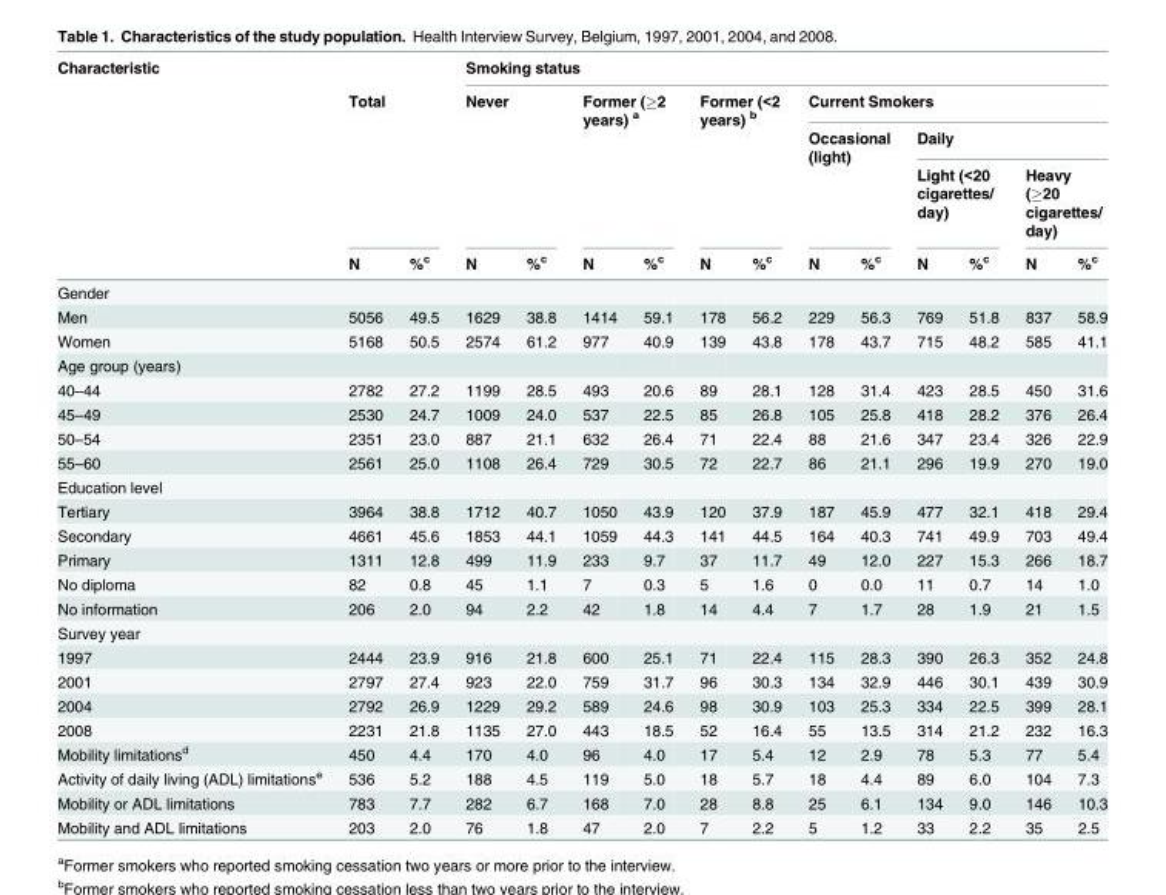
<table><thead><tr><td rowspan="5">Characteristic</td><td></td><td></td><td colspan="12">Smoking status</td></tr><tr><td colspan="2">Total</td><td colspan="2">Never</td><td colspan="2">Former (≥2 years) <sup>a</sup></td><td colspan="2">Former (&lt;2 years) <sup>b</sup></td><td colspan="6">Current Smokers</td></tr><tr><td rowspan="3">N</td><td rowspan="3">%<sup>c</sup></td><td rowspan="3">N</td><td rowspan="3">%<sup>c</sup></td><td rowspan="3">N</td><td rowspan="3">%<sup>c</sup></td><td rowspan="3">N</td><td rowspan="3">%<sup>c</sup></td><td colspan="2">Occasional (light)</td><td colspan="4">Daily</td></tr><tr><td rowspan="2">N</td><td rowspan="2">%<sup>c</sup></td><td colspan="2">Light (&lt;20 cigarettes/ day)</td><td colspan="2">Heavy (≥20 cigarettes/ day)</td></tr><tr><td>N</td><td>%<sup>c</sup></td><td>N</td><td>%<sup>c</sup></td></tr></thead><tbody><tr><td colspan="15">Gender</td></tr><tr><td>Men</td><td>5056</td><td>49.5</td><td>1629</td><td>38.8</td><td>1414</td><td>59.1</td><td>178</td><td>56.2</td><td>229</td><td>56.3</td><td>769</td><td>51.8</td><td>837</td><td>58.9</td></tr><tr><td>Women</td><td>5168</td><td>50.5</td><td>2574</td><td>61.2</td><td>977</td><td>40.9</td><td>139</td><td>43.8</td><td>178</td><td>43.7</td><td>715</td><td>48.2</td><td>585</td><td>41.1</td></tr><tr><td colspan="15">Age group (years)</td></tr><tr><td>40–44</td><td>2782</td><td>27.2</td><td>1199</td><td>28.5</td><td>493</td><td>20.6</td><td>89</td><td>28.1</td><td>128</td><td>31.4</td><td>423</td><td>28.5</td><td>450</td><td>31.6</td></tr><tr><td>45–49</td><td>2530</td><td>24.7</td><td>1009</td><td>24.0</td><td>537</td><td>22.5</td><td>85</td><td>26.8</td><td>105</td><td>25.8</td><td>418</td><td>28.2</td><td>376</td><td>26.4</td></tr><tr><td>50–54</td><td>2351</td><td>23.0</td><td>887</td><td>21.1</td><td>632</td><td>26.4</td><td>71</td><td>22.4</td><td>88</td><td>21.6</td><td>347</td><td>23.4</td><td>326</td><td>22.9</td></tr><tr><td>55–60</td><td>2561</td><td>25.0</td><td>1108</td><td>26.4</td><td>729</td><td>30.5</td><td>72</td><td>22.7</td><td>86</td><td>21.1</td><td>296</td><td>19.9</td><td>270</td><td>19.0</td></tr><tr><td colspan="15">Education level</td></tr><tr><td>Tertiary</td><td>3964</td><td>38.8</td><td>1712</td><td>40.7</td><td>1050</td><td>43.9</td><td>120</td><td>37.9</td><td>187</td><td>45.9</td><td>477</td><td>32.1</td><td>418</td><td>29.4</td></tr><tr><td>Secondary</td><td>4661</td><td>45.6</td><td>1853</td><td>44.1</td><td>1059</td><td>44.3</td><td>141</td><td>44.5</td><td>164</td><td>40.3</td><td>741</td><td>49.9</td><td>703</td><td>49.4</td></tr><tr><td>Primary</td><td>1311</td><td>12.8</td><td>499</td><td>11.9</td><td>233</td><td>9.7</td><td>37</td><td>11.7</td><td>49</td><td>12.0</td><td>227</td><td>15.3</td><td>266</td><td>18.7</td></tr><tr><td>No diploma</td><td>82</td><td>0.8</td><td>45</td><td>1.1</td><td>7</td><td>0.3</td><td>5</td><td>1.6</td><td>0</td><td>0.0</td><td>11</td><td>0.7</td><td>14</td><td>1.0</td></tr><tr><td>No information</td><td>206</td><td>2.0</td><td>94</td><td>2.2</td><td>42</td><td>1.8</td><td>14</td><td>4.4</td><td>7</td><td>1.7</td><td>28</td><td>1.9</td><td>21</td><td>1.5</td></tr><tr><td colspan="15">Survey year</td></tr><tr><td>1997</td><td>2444</td><td>23.9</td><td>916</td><td>21.8</td><td>600</td><td>25.1</td><td>71</td><td>22.4</td><td>115</td><td>28.3</td><td>390</td><td>26.3</td><td>352</td><td>24.8</td></tr><tr><td>2001</td><td>2797</td><td>27.4</td><td>923</td><td>22.0</td><td>759</td><td>31.7</td><td>96</td><td>30.3</td><td>134</td><td>32.9</td><td>446</td><td>30.1</td><td>439</td><td>30.9</td></tr><tr><td>2004</td><td>2792</td><td>26.9</td><td>1229</td><td>29.2</td><td>589</td><td>24.6</td><td>98</td><td>30.9</td><td>103</td><td>25.3</td><td>334</td><td>22.5</td><td>399</td><td>28.1</td></tr><tr><td>2008</td><td>2231</td><td>21.8</td><td>1135</td><td>27.0</td><td>443</td><td>18.5</td><td>52</td><td>16.4</td><td>55</td><td>13.5</td><td>314</td><td>21.2</td><td>232</td><td>16.3</td></tr><tr><td>Mobility limitations<sup>d</sup></td><td>450</td><td>4.4</td><td>170</td><td>4.0</td><td>96</td><td>4.0</td><td>17</td><td>5.4</td><td>12</td><td>2.9</td><td>78</td><td>5.3</td><td>77</td><td>5.4</td></tr><tr><td>Activity of daily living (ADL) limitations<sup>e</sup></td><td>536</td><td>5.2</td><td>188</td><td>4.5</td><td>119</td><td>5.0</td><td>18</td><td>5.7</td><td>18</td><td>4.4</td><td>89</td><td>6.0</td><td>104</td><td>7.3</td></tr><tr><td>Mobility or ADL limitations</td><td>783</td><td>7.7</td><td>282</td><td>6.7</td><td>168</td><td>7.0</td><td>28</td><td>8.8</td><td>25</td><td>6.1</td><td>134</td><td>9.0</td><td>146</td><td>10.3</td></tr><tr><td>Mobility and ADL limitations</td><td>203</td><td>2.0</td><td>76</td><td>1.8</td><td>47</td><td>2.0</td><td>7</td><td>2.2</td><td>5</td><td>1.2</td><td>33</td><td>2.2</td><td>35</td><td>2.5</td></tr></tbody></table>